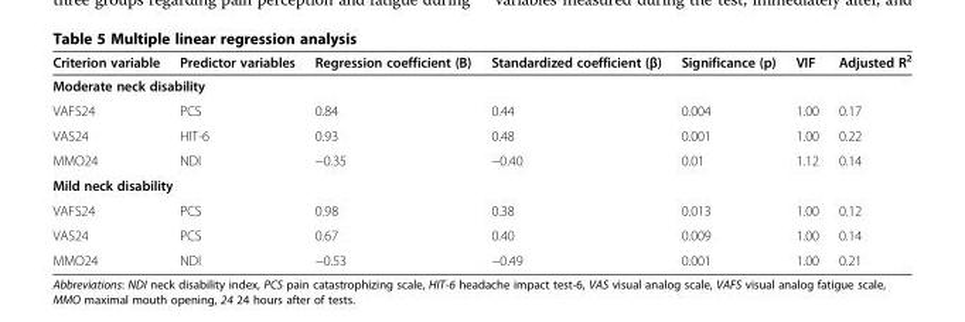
<table><thead><tr><td>Criterion variable</td><td>Predictor variables</td><td>Regression coefficient (B)</td><td>Standardized coefficient (β)</td><td>Significance (p)</td><td>VIF</td><td>Adjusted R<sup>2</sup></td></tr></thead><tbody><tr><td colspan="7">Moderate neck disability</td></tr><tr><td>VAFS24</td><td>PCS</td><td>0.84</td><td>0.44</td><td>0.004</td><td>1.00</td><td>0.17</td></tr><tr><td>VAS24</td><td>HIT-6</td><td>0.93</td><td>0.48</td><td>0.001</td><td>1.00</td><td>0.22</td></tr><tr><td>MMO24</td><td>NDI</td><td>−0.35</td><td>−0.40</td><td>0.01</td><td>1.12</td><td>0.14</td></tr><tr><td colspan="7">Mild neck disability</td></tr><tr><td>VAFS24</td><td>PCS</td><td>0.98</td><td>0.38</td><td>0.013</td><td>1.00</td><td>0.12</td></tr><tr><td>VAS24</td><td>PCS</td><td>0.67</td><td>0.40</td><td>0.009</td><td>1.00</td><td>0.14</td></tr><tr><td>MMO24</td><td>NDI</td><td>−0.53</td><td>−0.49</td><td>0.001</td><td>1.00</td><td>0.21</td></tr></tbody></table>